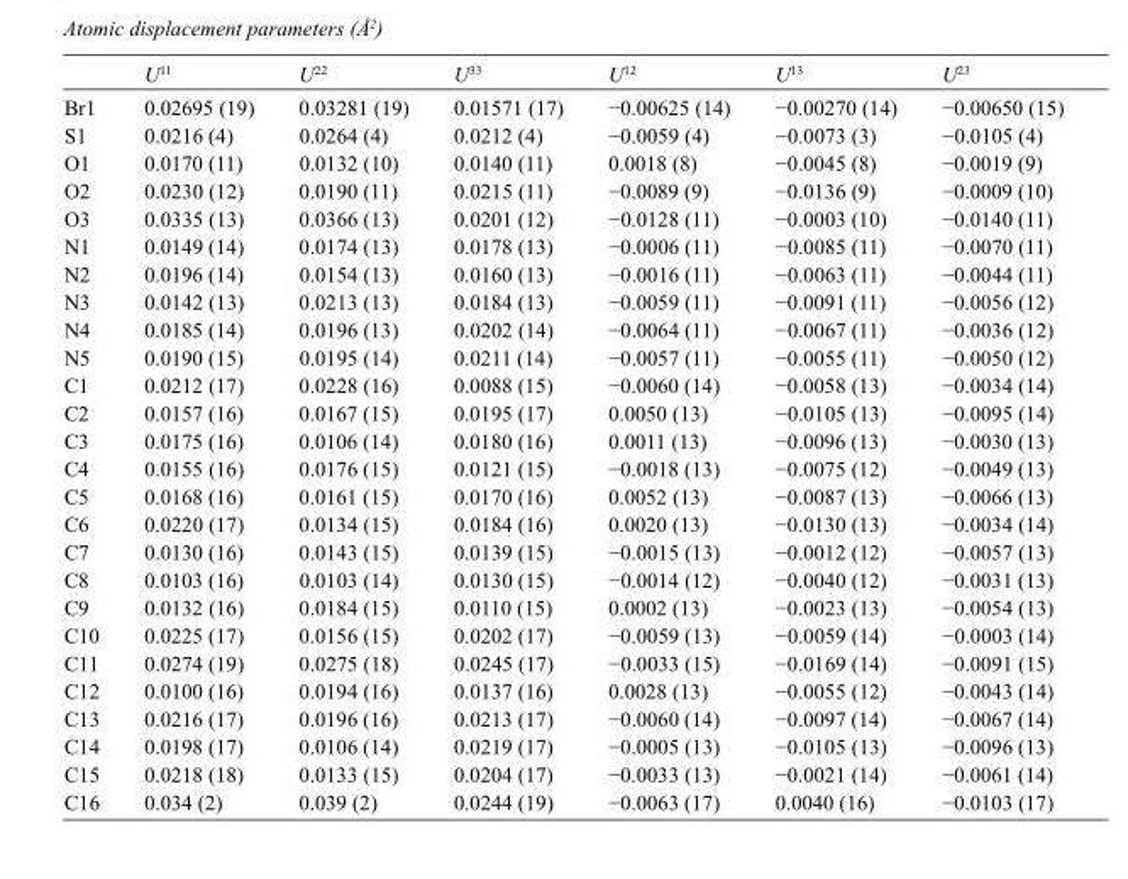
<table><thead><tr><td></td><td>U<sup>11</sup></td><td>U<sup>22</sup></td><td>U<sup>33</sup></td><td>U<sup>12</sup></td><td>U<sup>13</sup></td><td>U<sup>23</sup></td></tr></thead><tbody><tr><td>Br1</td><td>0.02695 (19)</td><td>0.03281 (19)</td><td>0.01571 (17)</td><td>−0.00625 (14)</td><td>−0.00270 (14)</td><td>−0.00650 (15)</td></tr><tr><td>S1</td><td>0.0216 (4)</td><td>0.0264 (4)</td><td>0.0212 (4)</td><td>−0.0059 (4)</td><td>−0.0073 (3)</td><td>−0.0105 (4)</td></tr><tr><td>O1</td><td>0.0170 (11)</td><td>0.0132 (10)</td><td>0.0140 (11)</td><td>0.0018 (8)</td><td>−0.0045 (8)</td><td>−0.0019 (9)</td></tr><tr><td>O2</td><td>0.0230 (12)</td><td>0.0190 (11)</td><td>0.0215 (11)</td><td>−0.0089 (9)</td><td>−0.0136 (9)</td><td>−0.0009 (10)</td></tr><tr><td>O3</td><td>0.0335 (13)</td><td>0.0366 (13)</td><td>0.0201 (12)</td><td>−0.0128 (11)</td><td>−0.0003 (10)</td><td>−0.0140 (11)</td></tr><tr><td>N1</td><td>0.0149 (14)</td><td>0.0174 (13)</td><td>0.0178 (13)</td><td>−0.0006 (11)</td><td>−0.0085 (11)</td><td>−0.0070 (11)</td></tr><tr><td>N2</td><td>0.0196 (14)</td><td>0.0154 (13)</td><td>0.0160 (13)</td><td>−0.0016 (11)</td><td>−0.0063 (11)</td><td>−0.0044 (11)</td></tr><tr><td>N3</td><td>0.0142 (13)</td><td>0.0213 (13)</td><td>0.0184 (13)</td><td>−0.0059 (11)</td><td>−0.0091 (11)</td><td>−0.0056 (12)</td></tr><tr><td>N4</td><td>0.0185 (14)</td><td>0.0196 (13)</td><td>0.0202 (14)</td><td>−0.0064 (11)</td><td>−0.0067 (11)</td><td>−0.0036 (12)</td></tr><tr><td>N5</td><td>0.0190 (15)</td><td>0.0195 (14)</td><td>0.0211 (14)</td><td>−0.0057 (11)</td><td>−0.0055 (11)</td><td>−0.0050 (12)</td></tr><tr><td>C1</td><td>0.0212 (17)</td><td>0.0228 (16)</td><td>0.0088 (15)</td><td>−0.0060 (14)</td><td>−0.0058 (13)</td><td>−0.0034 (14)</td></tr><tr><td>C2</td><td>0.0157 (16)</td><td>0.0167 (15)</td><td>0.0195 (17)</td><td>0.0050 (13)</td><td>−0.0105 (13)</td><td>−0.0095 (14)</td></tr><tr><td>C3</td><td>0.0175 (16)</td><td>0.0106 (14)</td><td>0.0180 (16)</td><td>0.0011 (13)</td><td>−0.0096 (13)</td><td>−0.0030 (13)</td></tr><tr><td>C4</td><td>0.0155 (16)</td><td>0.0176 (15)</td><td>0.0121 (15)</td><td>−0.0018 (13)</td><td>−0.0075 (12)</td><td>−0.0049 (13)</td></tr><tr><td>C5</td><td>0.0168 (16)</td><td>0.0161 (15)</td><td>0.0170 (16)</td><td>0.0052 (13)</td><td>−0.0087 (13)</td><td>−0.0066 (13)</td></tr><tr><td>C6</td><td>0.0220 (17)</td><td>0.0134 (15)</td><td>0.0184 (16)</td><td>0.0020 (13)</td><td>−0.0130 (13)</td><td>−0.0034 (14)</td></tr><tr><td>C7</td><td>0.0130 (16)</td><td>0.0143 (15)</td><td>0.0139 (15)</td><td>−0.0015 (13)</td><td>−0.0012 (12)</td><td>−0.0057 (13)</td></tr><tr><td>C8</td><td>0.0103 (16)</td><td>0.0103 (14)</td><td>0.0130 (15)</td><td>−0.0014 (12)</td><td>−0.0040 (12)</td><td>−0.0031 (13)</td></tr><tr><td>C9</td><td>0.0132 (16)</td><td>0.0184 (15)</td><td>0.0110 (15)</td><td>0.0002 (13)</td><td>−0.0023 (13)</td><td>−0.0054 (13)</td></tr><tr><td>C10</td><td>0.0225 (17)</td><td>0.0156 (15)</td><td>0.0202 (17)</td><td>−0.0059 (13)</td><td>−0.0059 (14)</td><td>−0.0003 (14)</td></tr><tr><td>C11</td><td>0.0274 (19)</td><td>0.0275 (18)</td><td>0.0245 (17)</td><td>−0.0033 (15)</td><td>−0.0169 (14)</td><td>−0.0091 (15)</td></tr><tr><td>C12</td><td>0.0100 (16)</td><td>0.0194 (16)</td><td>0.0137 (16)</td><td>0.0028 (13)</td><td>−0.0055 (12)</td><td>−0.0043 (14)</td></tr><tr><td>C13</td><td>0.0216 (17)</td><td>0.0196 (16)</td><td>0.0213 (17)</td><td>−0.0060 (14)</td><td>−0.0097 (14)</td><td>−0.0067 (14)</td></tr><tr><td>C14</td><td>0.0198 (17)</td><td>0.0106 (14)</td><td>0.0219 (17)</td><td>−0.0005 (13)</td><td>−0.0105 (13)</td><td>−0.0096 (13)</td></tr><tr><td>C15</td><td>0.0218 (18)</td><td>0.0133 (15)</td><td>0.0204 (17)</td><td>−0.0033 (13)</td><td>−0.0021 (14)</td><td>−0.0061 (14)</td></tr><tr><td>C16</td><td>0.034 (2)</td><td>0.039 (2)</td><td>0.0244 (19)</td><td>−0.0063 (17)</td><td>0.0040 (16)</td><td>−0.0103 (17)</td></tr></tbody></table>